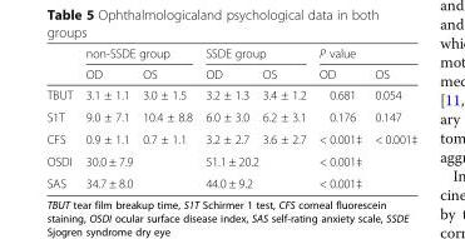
<table><thead><tr><td rowspan="2"></td><td colspan="2">non-SSDE group</td><td colspan="2">SSDE group</td><td colspan="2">P value</td></tr><tr><td>OD</td><td>OS</td><td>OD</td><td>OS</td><td>OD</td><td>OS</td></tr></thead><tbody><tr><td>TBUT</td><td>3.1 ± 1.1</td><td>3.0 ± 1.5</td><td>3.2 ± 1.3</td><td>3.4 ± 1.2</td><td>0.681</td><td>0.054</td></tr><tr><td>S1T</td><td>9.0 ± 7.1</td><td>10.4 ± 8.8</td><td>6.0 ± 3.0</td><td>6.2 ± 3.1</td><td>0.176</td><td>0.147</td></tr><tr><td>CFS</td><td>0.9 ± 1.1</td><td>0.7 ± 1.1</td><td>3.2 ± 2.7</td><td>3.6 ± 2.7</td><td>&lt; 0.001‡</td><td>&lt; 0.001‡</td></tr><tr><td>OSDI</td><td colspan="2">30.0 ± 7.9</td><td colspan="2">51.1 ± 20.2</td><td colspan="2">&lt; 0.001‡</td></tr><tr><td>SAS</td><td colspan="2">34.7 ± 8.0</td><td colspan="2">44.0 ± 9.2</td><td colspan="2">&lt; 0.001‡</td></tr></tbody></table>